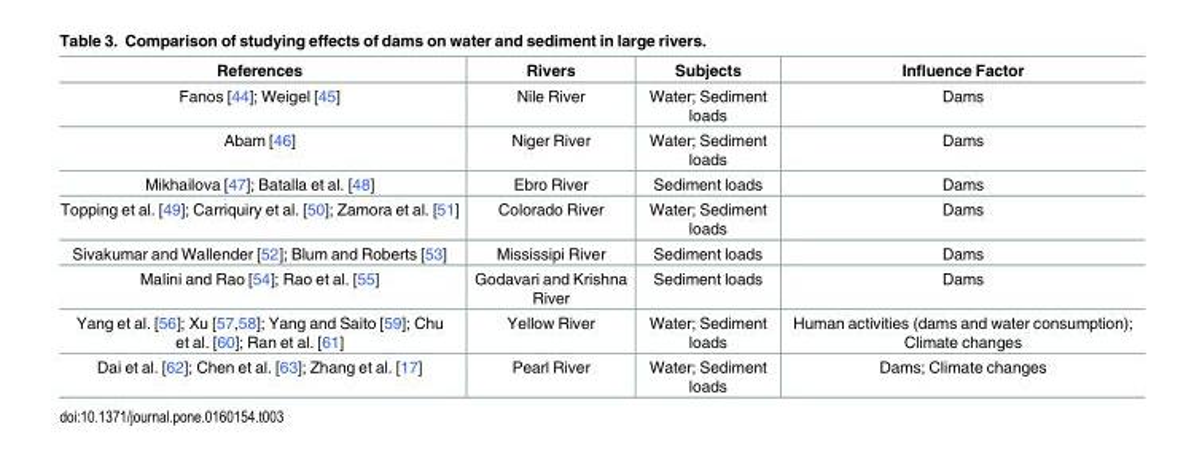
<table><thead><tr><td>References</td><td>Rivers</td><td>Subjects</td><td>Influence Factor</td></tr></thead><tbody><tr><td>Fanos [44]; Weigel [45]</td><td>Nile River</td><td>Water; Sediment loads</td><td>Dams</td></tr><tr><td>Abam [46]</td><td>Niger River</td><td>Water; Sediment loads</td><td>Dams</td></tr><tr><td>Mikhailova [47]; Batalla et al. [48]</td><td>Ebro River</td><td>Sediment loads</td><td>Dams</td></tr><tr><td>Topping et al. [49]; Carriquiry et al. [50]; Zamora et al. [51]</td><td>Colorado River</td><td>Water; Sediment loads</td><td>Dams</td></tr><tr><td>Sivakumar and Wallender [52]; Blum and Roberts [53]</td><td>Mississipi River</td><td>Sediment loads</td><td>Dams</td></tr><tr><td>Malini and Rao [54]; Rao et al. [55]</td><td>Godavari and Krishna River</td><td>Sediment loads</td><td>Dams</td></tr><tr><td>Yang et al. [56]; Xu [57,58]; Yang and Saito [59]; Chu et al. [60]; Ran et al. [61]</td><td>Yellow River</td><td>Water; Sediment loads</td><td>Human activities (dams and water consumption); Climate changes</td></tr><tr><td>Dai et al. [62]; Chen et al. [63]; Zhang et al. [17]</td><td>Pearl River</td><td>Water; Sediment loads</td><td>Dams; Climate changes</td></tr></tbody></table>